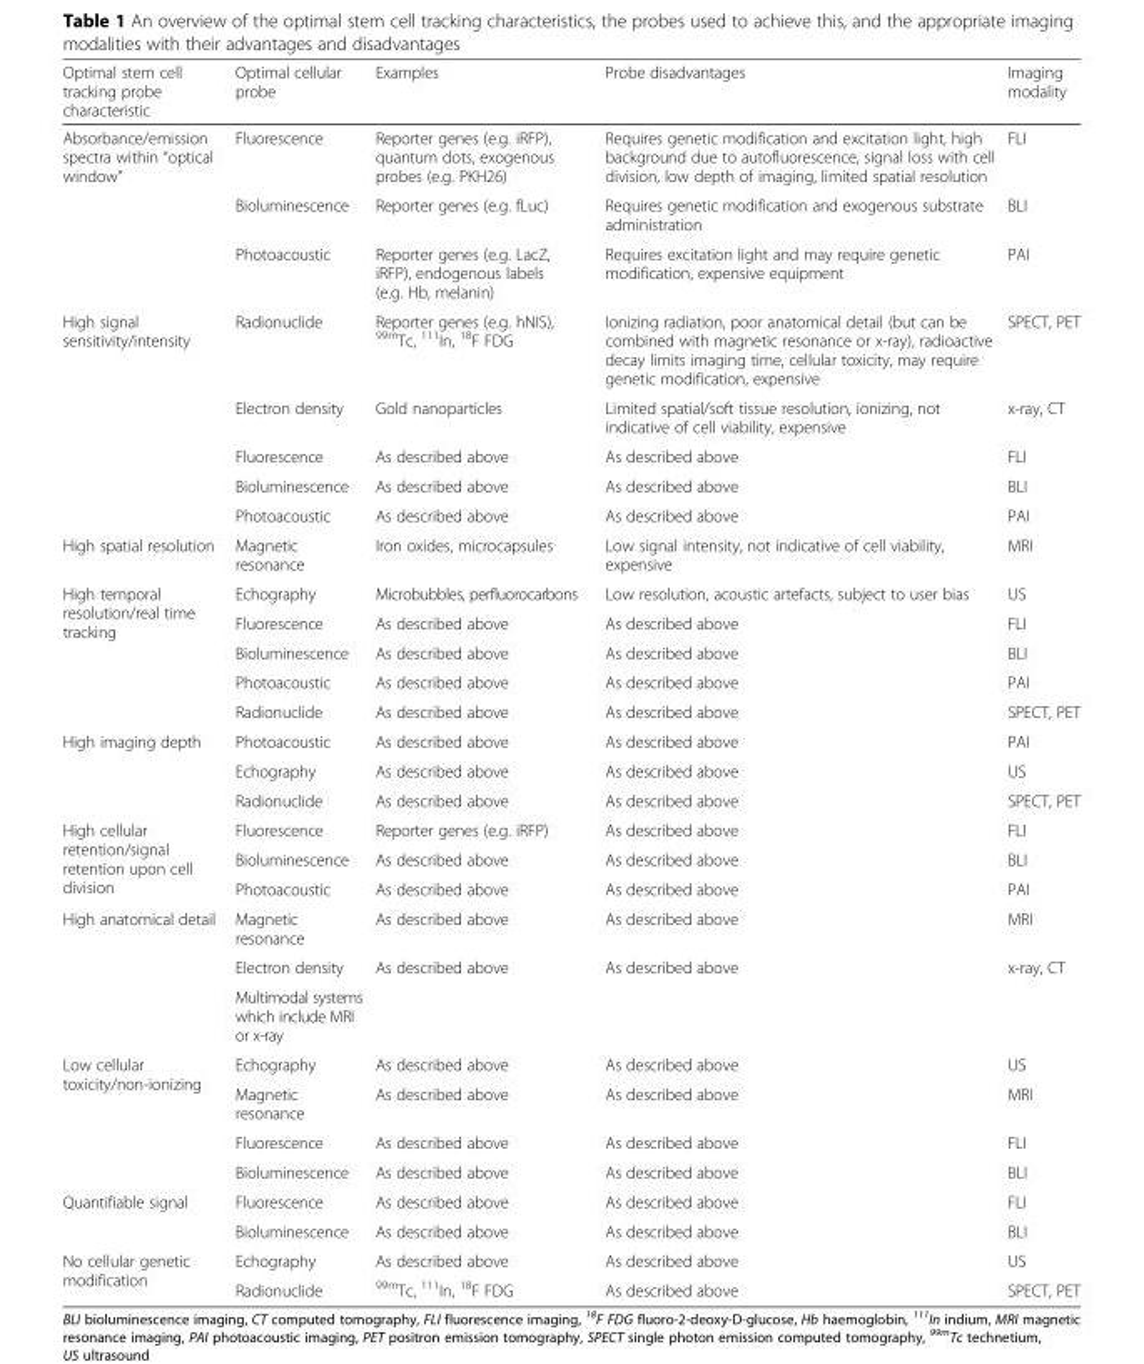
<table><thead><tr><td>Optimal stem cell tracking probe characteristic</td><td>Optimal cellular probe</td><td>Examples</td><td>Probe disadvantages</td><td>Imaging modality</td></tr></thead><tbody><tr><td rowspan="3">Absorbance/emission spectra within “optical window”</td><td>Fluorescence</td><td>Reporter genes (e.g. iRFP), quantum dots, exogenous probes (e.g. PKH26)</td><td>Requires genetic modification and excitation light, high background due to autofluorescence, signal loss with cell division, low depth of imaging, limited spatial resolution</td><td>FLI</td></tr><tr><td>Bioluminescence</td><td>Reporter genes (e.g. fLuc)</td><td>Requires genetic modification and exogenous substrate administration</td><td>BLI</td></tr><tr><td>Photoacoustic</td><td>Reporter genes (e.g. LacZ, iRFP), endogenous labels (e.g. Hb, melanin)</td><td>Requires excitation light and may require genetic modification, expensive equipment</td><td>PAI</td></tr><tr><td rowspan="5">High signal sensitivity/intensity</td><td>Radionuclide</td><td>Reporter genes (e.g. hNIS), <sup>99m</sup>Tc, <sup>111</sup>In, <sup>18</sup>F FDG</td><td>Ionizing radiation, poor anatomical detail (but can be combined with magnetic resonance or x-ray), radioactive decay limits imaging time, cellular toxicity, may require genetic modification, expensive</td><td>SPECT, PET</td></tr><tr><td>Electron density</td><td>Gold nanoparticles</td><td>Limited spatial/soft tissue resolution, ionizing, not indicative of cell viability, expensive</td><td>x-ray, CT</td></tr><tr><td>Fluorescence</td><td>As described above</td><td>As described above</td><td>FLI</td></tr><tr><td>Bioluminescence</td><td>As described above</td><td>As described above</td><td>BLI</td></tr><tr><td>Photoacoustic</td><td>As described above</td><td>As described above</td><td>PAI</td></tr><tr><td>High spatial resolution</td><td>Magnetic resonance</td><td>Iron oxides, microcapsules</td><td>Low signal intensity, not indicative of cell viability, expensive</td><td>MRI</td></tr><tr><td rowspan="5">High temporal resolution/real time tracking</td><td>Echography</td><td>Microbubbles, perfluorocarbons</td><td>Low resolution, acoustic artefacts, subject to user bias</td><td>US</td></tr><tr><td>Fluorescence</td><td>As described above</td><td>As described above</td><td>FLI</td></tr><tr><td>Bioluminescence</td><td>As described above</td><td>As described above</td><td>BLI</td></tr><tr><td>Photoacoustic</td><td>As described above</td><td>As described above</td><td>PAI</td></tr><tr><td>Radionuclide</td><td>As described above</td><td>As described above</td><td>SPECT, PET</td></tr><tr><td rowspan="3">High imaging depth</td><td>Photoacoustic</td><td>As described above</td><td>As described above</td><td>PAI</td></tr><tr><td>Echography</td><td>As described above</td><td>As described above</td><td>US</td></tr><tr><td>Radionuclide</td><td>As described above</td><td>As described above</td><td>SPECT, PET</td></tr><tr><td rowspan="3">High cellular retention/signal retention upon cell division</td><td>Fluorescence</td><td>Reporter genes (e.g. iRFP)</td><td>As described above</td><td>FLI</td></tr><tr><td>Bioluminescence</td><td>As described above</td><td>As described above</td><td>BLI</td></tr><tr><td>Photoacoustic</td><td>As described above</td><td>As described above</td><td>PAI</td></tr><tr><td rowspan="3">High anatomical detail</td><td>Magnetic resonance</td><td>As described above</td><td>As described above</td><td>MRI</td></tr><tr><td>Electron density</td><td rowspan="2">As described above</td><td rowspan="2">As described above</td><td rowspan="2">x-ray, CT</td></tr><tr><td>Multimodal systems which include MRI or x-ray</td></tr><tr><td rowspan="4">Low cellular toxicity/non-ionizing</td><td>Echography</td><td>As described above</td><td>As described above</td><td>US</td></tr><tr><td>Magnetic resonance</td><td>As described above</td><td>As described above</td><td>MRI</td></tr><tr><td>Fluorescence</td><td>As described above</td><td>As described above</td><td>FLI</td></tr><tr><td>Bioluminescence</td><td>As described above</td><td>As described above</td><td>BLI</td></tr><tr><td rowspan="2">Quantifiable signal</td><td>Fluorescence</td><td>As described above</td><td>As described above</td><td>FLI</td></tr><tr><td>Bioluminescence</td><td>As described above</td><td>As described above</td><td>BLI</td></tr><tr><td rowspan="2">No cellular genetic modification</td><td>Echography</td><td>As described above</td><td>As described above</td><td>US</td></tr><tr><td>Radionuclide</td><td><sup>99m</sup>Tc, <sup>111</sup>In, <sup>18</sup>F FDG</td><td>As described above</td><td>SPECT, PET</td></tr></tbody></table>